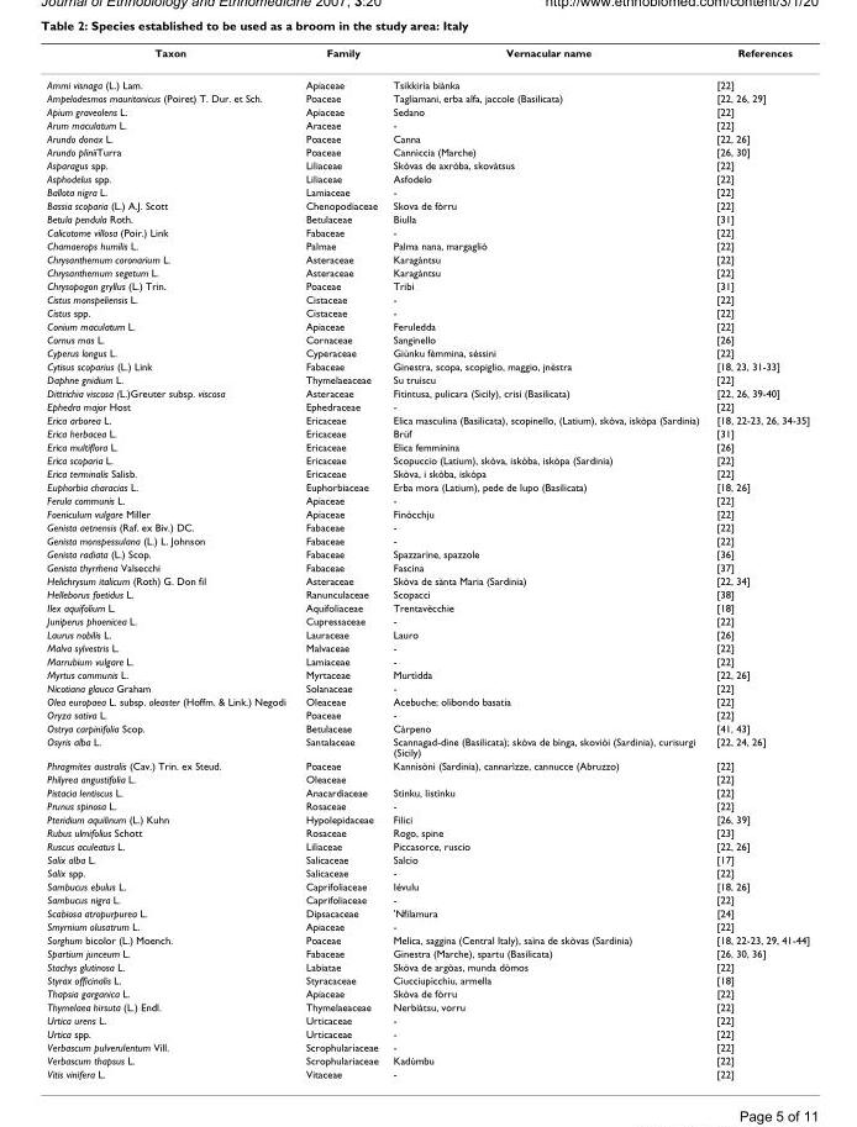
<table><thead><tr><td>Taxon</td><td>Family</td><td>Vernacular name</td><td>References</td></tr></thead><tbody><tr><td>Ammi visnaga (L.) Lam.</td><td>Apiaceae</td><td>Tsikkirìa biànka</td><td>[22]</td></tr><tr><td>Ampelodesmos mauritanicus (Poiret) T. Dur. et Sch.</td><td>Poaceae</td><td>Tagliamani, erba alfa, jaccole (Basilicata)</td><td>[22, 26, 29]</td></tr><tr><td>Apium graveolens L.</td><td>Apiaceae</td><td>Sedano</td><td>[22]</td></tr><tr><td>Arum maculatum L.</td><td>Araceae</td><td>-</td><td>[22]</td></tr><tr><td>Arundo donax L.</td><td>Poaceae</td><td>Canna</td><td>[22, 26]</td></tr><tr><td>Arundo pliniiTurra</td><td>Poaceae</td><td>Cannìccia (Marche)</td><td>[26, 30]</td></tr><tr><td>Asparagus spp.</td><td>Liliaceae</td><td>Skòvas de axròba, skovàtsus</td><td>[22]</td></tr><tr><td>Asphodelus spp.</td><td>Liliaceae</td><td>Asfodelo</td><td>[22]</td></tr><tr><td>Ballota nigra L.</td><td>Lamiaceae</td><td>-</td><td>[22]</td></tr><tr><td>Bassia scoparia (L.) A.J. Scott</td><td>Chenopodiaceae</td><td>Skova de fòrru</td><td>[22]</td></tr><tr><td>Betula pendula Roth.</td><td>Betulaceae</td><td>Biulla</td><td>[31]</td></tr><tr><td>Calicotome villosa (Poir.) Link</td><td>Fabaceae</td><td>-</td><td>[22]</td></tr><tr><td>Chamaerops humilis L.</td><td>Palmae</td><td>Palma nana, margagliò</td><td>[22]</td></tr><tr><td>Chrysanthemum coronarium L.</td><td>Asteraceae</td><td>Karagàntsu</td><td>[22]</td></tr><tr><td>Chrysanthemum segetum L.</td><td>Asteraceae</td><td>Karagàntsu</td><td>[22]</td></tr><tr><td>Chrysopogon gryllus (L.) Trin.</td><td>Poaceae</td><td>Tribi</td><td>[31]</td></tr><tr><td>Cistus monspeliensis L.</td><td>Cistaceae</td><td>-</td><td>[22]</td></tr><tr><td>Cistus spp.</td><td>Cistaceae</td><td>-</td><td>[22]</td></tr><tr><td>Conium maculatum L.</td><td>Apiaceae</td><td>Feruledda</td><td>[22]</td></tr><tr><td>Cornus mas L.</td><td>Cornaceae</td><td>Sanginello</td><td>[26]</td></tr><tr><td>Cyperus longus L.</td><td>Cyperaceae</td><td>Giùnku fèmmina, séssini</td><td>[22]</td></tr><tr><td>Cytisus scoparius (L.) Link</td><td>Fabaceae</td><td>Ginestra, scopa, scopiglio, maggio, jnèstra</td><td>[18, 23, 31-33]</td></tr><tr><td>Daphne gnidium L.</td><td>Thymelaeaceae</td><td>Su truìscu</td><td>[22]</td></tr><tr><td>Dittrichia viscosa (L.)Greuter subsp. viscosa</td><td>Asteraceae</td><td>Fitintusa, pulicara (Sicily), crisi (Basilicata)</td><td>[22, 26, 39-40]</td></tr><tr><td>Ephedra major Host</td><td>Ephedraceae</td><td>-</td><td>[22]</td></tr><tr><td>Erica arborea L.</td><td>Ericaceae</td><td>Elica masculina (Basilicata), scopinello, (Latium), skòva, iskòpa (Sardinia)</td><td>[18, 22-23, 26, 34-35]</td></tr><tr><td>Erica herbacea L.</td><td>Ericaceae</td><td>Brüf</td><td>[31]</td></tr><tr><td>Erica multiflora L.</td><td>Ericaceae</td><td>Elica femminina</td><td>[26]</td></tr><tr><td>Erica scoparia L.</td><td>Ericaceae</td><td>Scopuccio (Latium), skòva, iskòba, iskòpa (Sardinia)</td><td>[22]</td></tr><tr><td>Erica terminalis Salisb.</td><td>Ericaceae</td><td>Skòva, i skòba, iskòpa</td><td>[22]</td></tr><tr><td>Euphorbia characias L.</td><td>Euphorbiaceae</td><td>Erba mora (Latium), pede de lupo (Basilicata)</td><td>[18, 26]</td></tr><tr><td>Ferula communis L.</td><td>Apiaceae</td><td>-</td><td>[22]</td></tr><tr><td>Foeniculum vulgare Miller</td><td>Apiaceae</td><td>Finòcchju</td><td>[22]</td></tr><tr><td>Genista aetnensis (Raf. ex Biv.) DC.</td><td>Fabaceae</td><td>-</td><td>[22]</td></tr><tr><td>Genista monspessulana (L.) L. Johnson</td><td>Fabaceae</td><td>-</td><td>[22]</td></tr><tr><td>Genista radiata (L.) Scop.</td><td>Fabaceae</td><td>Spazzarìne, spazzole</td><td>[36]</td></tr><tr><td>Genista thyrrhena Valsecchi</td><td>Fabaceae</td><td>Fascina</td><td>[37]</td></tr><tr><td>Helichrysum italicum (Roth) G. Don fil</td><td>Asteraceae</td><td>Skòva de sànta Maria (Sardinia)</td><td>[22, 34]</td></tr><tr><td>Helleborus foetidus L.</td><td>Ranunculaceae</td><td>Scopacci</td><td>[38]</td></tr><tr><td>Ilex aquifolium L.</td><td>Aquifoliaceae</td><td>Trentavècchie</td><td>[18]</td></tr><tr><td>Juniperus phoenicea L.</td><td>Cupressaceae</td><td>-</td><td>[22]</td></tr><tr><td>Laurus nobilis L.</td><td>Lauraceae</td><td>Lauro</td><td>[26]</td></tr><tr><td>Malva sylvestris L.</td><td>Malvaceae</td><td>-</td><td>[22]</td></tr><tr><td>Marrubium vulgare L.</td><td>Lamiaceae</td><td>-</td><td>[22]</td></tr><tr><td>Myrtus communis L.</td><td>Myrtaceae</td><td>Murtìdda</td><td>[22, 26]</td></tr><tr><td>Nicotiana glauca Graham</td><td>Solanaceae</td><td>-</td><td>[22]</td></tr><tr><td>Olea europaea L. subsp. oleaster (Hoffm. &amp; Link.) Negodi</td><td>Oleaceae</td><td>Acebuche; olibondo basatia</td><td>[22]</td></tr><tr><td>Oryza sativa L.</td><td>Poaceae</td><td>-</td><td>[22]</td></tr><tr><td>Ostrya carpinifolia Scop.</td><td>Betulaceae</td><td>Càrpeno</td><td>[41, 43]</td></tr><tr><td>Osyris alba L.</td><td>Santalaceae</td><td>Scannagad-dìne (Basilicata); skòva de bìnga, skoviòi (Sardinia), curisurgi (Sicily)</td><td>[22, 24, 26]</td></tr><tr><td>Phragmites australis (Cav.) Trin. ex Steud.</td><td>Poaceae</td><td>Kannisòni (Sardinia), cannarìzze, cannucce (Abruzzo)</td><td>[22]</td></tr><tr><td>Philyrea angustifolia L.</td><td>Oleaceae</td><td></td><td>[22]</td></tr><tr><td>Pistacia lentiscus L.</td><td>Anacardiaceae</td><td>Stìnku, listìnku</td><td>[22]</td></tr><tr><td>Prunus spinosa L.</td><td>Rosaceae</td><td>-</td><td>[22]</td></tr><tr><td>Pteridium aquilinum (L.) Kuhn</td><td>Hypolepidaceae</td><td>Filici</td><td>[26, 39]</td></tr><tr><td>Rubus ulmifolius Schott</td><td>Rosaceae</td><td>Rogo, spine</td><td>[23]</td></tr><tr><td>Ruscus aculeatus L.</td><td>Liliaceae</td><td>Piccasorce, ruscio</td><td>[22, 26]</td></tr><tr><td>Salix alba L.</td><td>Salicaceae</td><td>Salcio</td><td>[17]</td></tr><tr><td>Salix spp.</td><td>Salicaceae</td><td>-</td><td>[22]</td></tr><tr><td>Sambucus ebulus L.</td><td>Caprifoliaceae</td><td>Iévulu</td><td>[18, 26]</td></tr><tr><td>Sambucus nigra L.</td><td>Caprifoliaceae</td><td>-</td><td>[22]</td></tr><tr><td>Scabiosa atropurpurea L.</td><td>Dipsacaceae</td><td>&#x27;Nfilamura</td><td>[24]</td></tr><tr><td>Smyrnium olusatrum L.</td><td>Apiaceae</td><td>-</td><td>[22]</td></tr><tr><td>Sorghum bicolor (L.) Moench.</td><td>Poaceae</td><td>Melica, saggina (Central Italy), saìna de skòvas (Sardinia)</td><td>[18, 22-23, 29, 41-44]</td></tr><tr><td>Spartium junceum L.</td><td>Fabaceae</td><td>Ginestra (Marche), spartu (Basilicata)</td><td>[26, 30, 36]</td></tr><tr><td>Stachys glutinosa L.</td><td>Labiatae</td><td>Skòva de argòas, munda dòmos</td><td>[22]</td></tr><tr><td>Styrax officinalis L.</td><td>Styracaceae</td><td>Ciucciupìcchiu, armella</td><td>[18]</td></tr><tr><td>Thapsia garganica L.</td><td>Apiaceae</td><td>Skòva de fòrru</td><td>[22]</td></tr><tr><td>Thymelaea hirsuta (L.) Endl.</td><td>Thymelaeaceae</td><td>Nerbiàtsu, vorru</td><td>[22]</td></tr><tr><td>Urtica urens L.</td><td>Urticaceae</td><td>-</td><td>[22]</td></tr><tr><td>Urtica spp.</td><td>Urticaceae</td><td>-</td><td>[22]</td></tr><tr><td>Verbascum pulverulentum Vill.</td><td>Scrophulariaceae</td><td>-</td><td>[22]</td></tr><tr><td>Verbascum thapsus L.</td><td>Scrophulariaceae</td><td>Kadùmbu</td><td>[22]</td></tr><tr><td>Vitis vinifera L.</td><td>Vitaceae</td><td>-</td><td>[22]</td></tr></tbody></table>